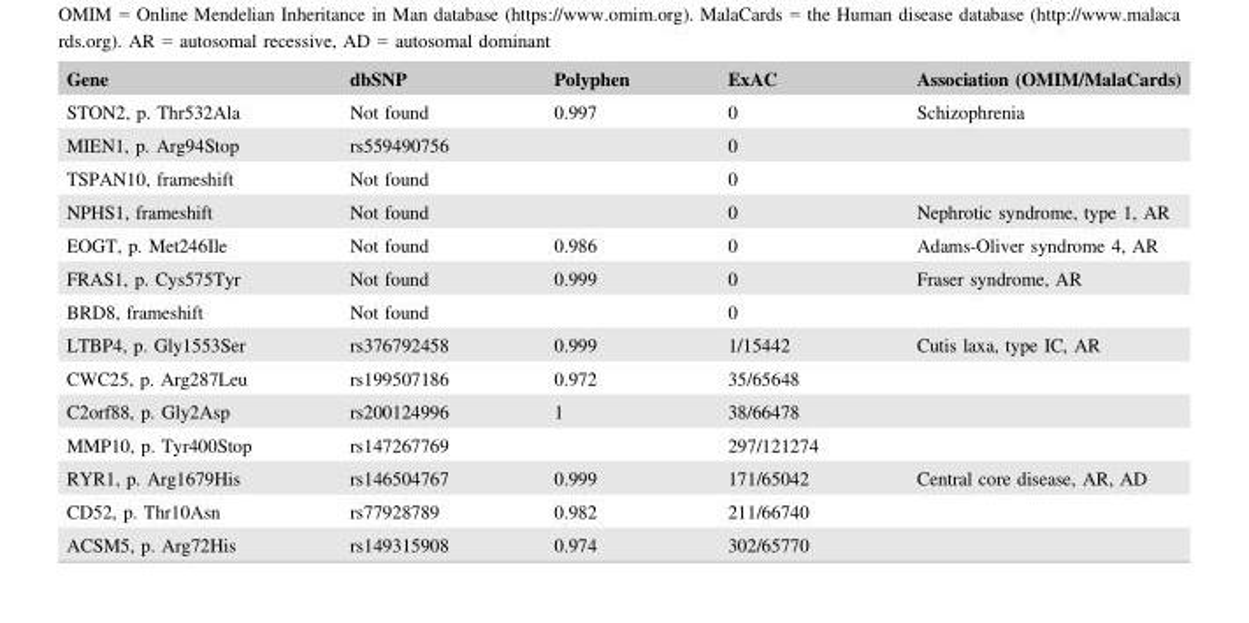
<table><thead><tr><td>Gene</td><td>dbSNP</td><td>Polyphen</td><td>ExAC</td><td>Association (OMIM/MalaCards)</td></tr></thead><tbody><tr><td>STON2, p. Thr532Ala</td><td>Not found</td><td>0.997</td><td>0</td><td>Schizophrenia</td></tr><tr><td>MIEN1, p. Arg94Stop</td><td>rs559490756</td><td></td><td>0</td><td></td></tr><tr><td>TSPAN10, frameshift</td><td>Not found</td><td></td><td>0</td><td></td></tr><tr><td>NPHS1, frameshift</td><td>Not found</td><td></td><td>0</td><td>Nephrotic syndrome, type 1, AR</td></tr><tr><td>EOGT, p. Met246Ile</td><td>Not found</td><td>0.986</td><td>0</td><td>Adams-Oliver syndrome 4, AR</td></tr><tr><td>FRAS1, p. Cys575Tyr</td><td>Not found</td><td>0.999</td><td>0</td><td>Fraser syndrome, AR</td></tr><tr><td>BRD8, frameshift</td><td>Not found</td><td></td><td>0</td><td></td></tr><tr><td>LTBP4, p. Gly1553Ser</td><td>rs376792458</td><td>0.999</td><td>1/15442</td><td>Cutis laxa, type IC, AR</td></tr><tr><td>CWC25, p. Arg287Leu</td><td>rs199507186</td><td>0.972</td><td>35/65648</td><td></td></tr><tr><td>C2orf88, p. Gly2Asp</td><td>rs200124996</td><td>1</td><td>38/66478</td><td></td></tr><tr><td>MMP10, p. Tyr400Stop</td><td>rs147267769</td><td></td><td>297/121274</td><td></td></tr><tr><td>RYR1, p. Arg1679His</td><td>rs146504767</td><td>0.999</td><td>171/65042</td><td>Central core disease, AR, AD</td></tr><tr><td>CD52, p. Thr10Asn</td><td>rs77928789</td><td>0.982</td><td>211/66740</td><td></td></tr><tr><td>ACSM5, p. Arg72His</td><td>rs149315908</td><td>0.974</td><td>302/65770</td><td></td></tr></tbody></table>